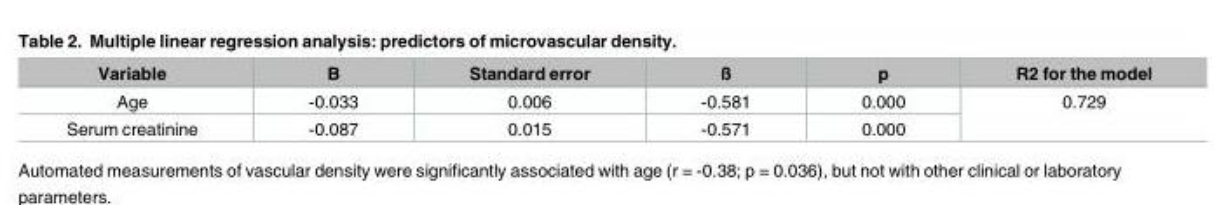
<table><thead><tr><td>Variable</td><td>B</td><td>Standard error</td><td>ß</td><td>p</td><td>R2 for the model</td></tr></thead><tbody><tr><td>Age</td><td>-0.033</td><td>0.006</td><td>-0.581</td><td>0.000</td><td rowspan="2">0.729</td></tr><tr><td>Serum creatinine</td><td>-0.087</td><td>0.015</td><td>-0.571</td><td>0.000</td></tr></tbody></table>